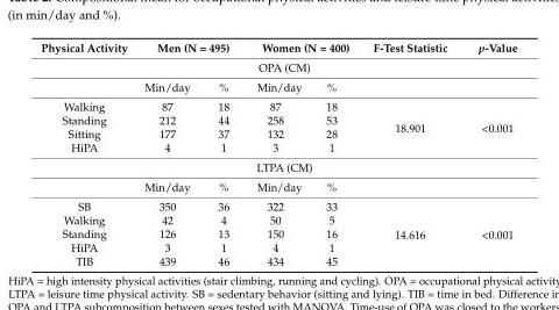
<table><thead><tr><td>Physical Activity</td><td colspan="2">Men (N = 495)</td><td colspan="2">Women (N = 400)</td><td>F-Test Statistic</td><td>p-Value</td></tr><tr><td colspan="7">OPA (CM)</td></tr><tr><td></td><td>Min/day</td><td>%</td><td>Min/day</td><td>%</td><td></td><td></td></tr></thead><tbody><tr><td>Walking</td><td>87</td><td>18</td><td>87</td><td>18</td><td rowspan="4">18.901</td><td rowspan="4">&lt;0.001</td></tr><tr><td>Standing</td><td>212</td><td>44</td><td>258</td><td>53</td></tr><tr><td>Sitting</td><td>177</td><td>37</td><td>132</td><td>28</td></tr><tr><td>HiPA</td><td>4</td><td>1</td><td>3</td><td>1</td></tr><tr><td colspan="7">LTPA (CM)</td></tr><tr><td></td><td>Min/day</td><td>%</td><td>Min/day</td><td>%</td><td></td><td></td></tr><tr><td>SB</td><td>350</td><td>36</td><td>322</td><td>33</td><td rowspan="5">14.616</td><td rowspan="5">&lt;0.001</td></tr><tr><td>Walking</td><td>42</td><td>4</td><td>50</td><td>5</td></tr><tr><td>Standing</td><td>126</td><td>13</td><td>150</td><td>16</td></tr><tr><td>HiPA</td><td>3</td><td>1</td><td>4</td><td>1</td></tr><tr><td>TIB</td><td>439</td><td>46</td><td>434</td><td>45</td></tr></tbody></table>